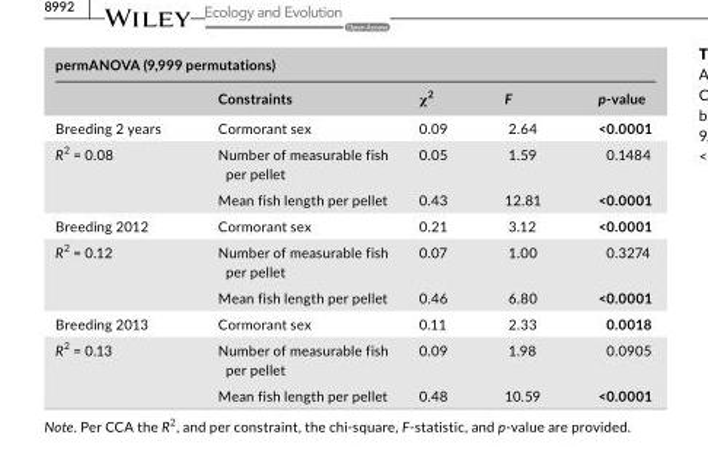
<table><thead><tr><td colspan="5">permANOVA (9,999 permutations)</td></tr><tr><td></td><td>Constraints</td><td>χ<sup>2</sup></td><td>F</td><td>p- value</td></tr></thead><tbody><tr><td>Breeding 2 years</td><td>Cormorant sex</td><td>0.09</td><td>2.64</td><td>&lt;0.0001</td></tr><tr><td rowspan="2">R<sup>2</sup> = 0.08</td><td>Number of measurable fish per pellet</td><td>0.05</td><td>1.59</td><td>0.1484</td></tr><tr><td>Mean fish length per pellet</td><td>0.43</td><td>12.81</td><td>&lt;0.0001</td></tr><tr><td>Breeding 2012</td><td>Cormorant sex</td><td>0.21</td><td>3.12</td><td>&lt;0.0001</td></tr><tr><td rowspan="2">R<sup>2</sup> = 0.12</td><td>Number of measurable fish per pellet</td><td>0.07</td><td>1.00</td><td>0.3274</td></tr><tr><td>Mean fish length per pellet</td><td>0.46</td><td>6.80</td><td>&lt;0.0001</td></tr><tr><td>Breeding 2013</td><td>Cormorant sex</td><td>0.11</td><td>2.33</td><td>0.0018</td></tr><tr><td rowspan="2">R<sup>2</sup> = 0.13</td><td>Number of measurable fish per pellet</td><td>0.09</td><td>1.98</td><td>0.0905</td></tr><tr><td>Mean fish length per pellet</td><td>0.48</td><td>10.59</td><td>&lt;0.0001</td></tr></tbody></table>